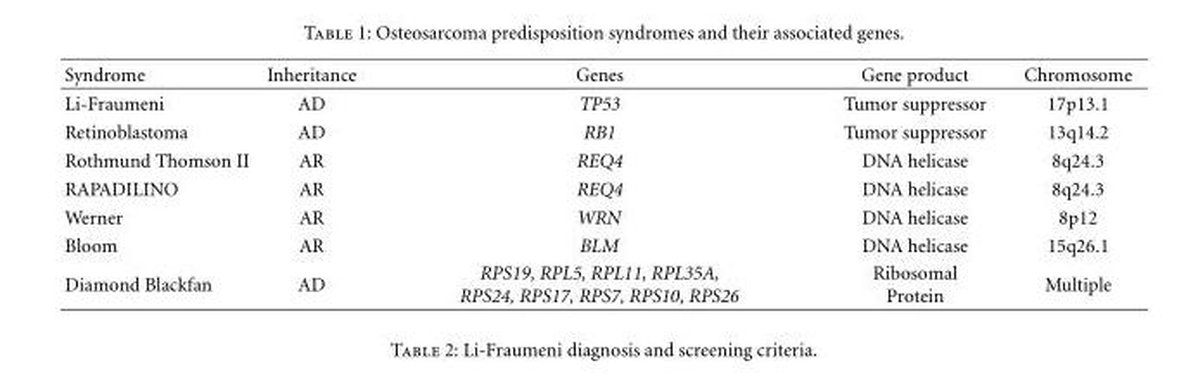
<table><thead><tr><td>Syndrome</td><td>Inheritance</td><td>Genes</td><td>Gene product</td><td>Chromosome</td></tr></thead><tbody><tr><td>Li-Fraumeni</td><td>AD</td><td>TP53</td><td>Tumor suppressor</td><td>17p13.1</td></tr><tr><td>Retinoblastoma</td><td>AD</td><td>RB1</td><td>Tumor suppressor</td><td>13q14.2</td></tr><tr><td>Rothmund Thomson II</td><td>AR</td><td>REQ4</td><td>DNA helicase</td><td>8q24.3</td></tr><tr><td>RAPADILINO</td><td>AR</td><td>REQ4</td><td>DNA helicase</td><td>8q24.3</td></tr><tr><td>Werner</td><td>AR</td><td>WRN</td><td>DNA helicase</td><td>8p12</td></tr><tr><td>Bloom</td><td>AR</td><td>BLM</td><td>DNA helicase</td><td>15q26.1</td></tr><tr><td>Diamond Blackfan</td><td>AD</td><td>RPS19, RPL5, RPL11, RPL35A, RPS24, RPS17, RPS7, RPS10, RPS26</td><td>Ribosomal Protein</td><td>Multiple</td></tr></tbody></table>